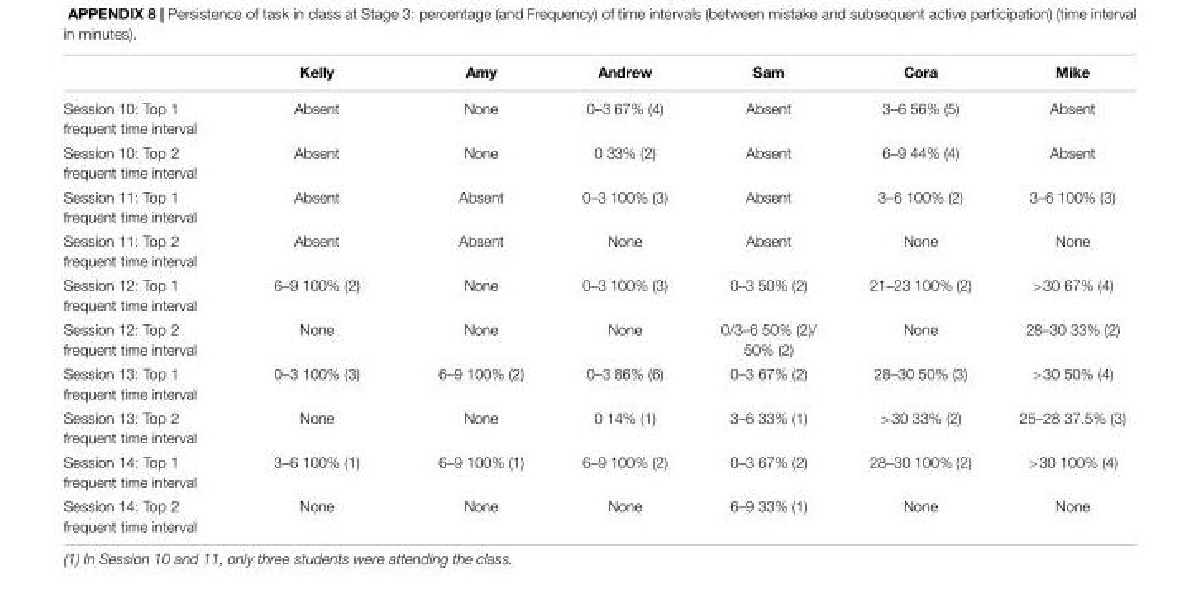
<table><thead><tr><td></td><td>Kelly</td><td>Amy</td><td>Andrew</td><td>Sam</td><td>Cora</td><td>Mike</td></tr></thead><tbody><tr><td>Session 10: Top 1 frequent time interval</td><td>Absent</td><td>None</td><td>0–3 67% (4)</td><td>Absent</td><td>3–6 56% (5)</td><td>Absent</td></tr><tr><td>Session 10: Top 2 frequent time interval</td><td>Absent</td><td>None</td><td>0 33% (2)</td><td>Absent</td><td>6–9 44% (4)</td><td>Absent</td></tr><tr><td>Session 11: Top 1 frequent time interval</td><td>Absent</td><td>Absent</td><td>0–3 100% (3)</td><td>Absent</td><td>3–6 100% (2)</td><td>3–6 100% (3)</td></tr><tr><td>Session 11: Top 2 frequent time interval</td><td>Absent</td><td>Absent</td><td>None</td><td>Absent</td><td>None</td><td>None</td></tr><tr><td>Session 12: Top 1 frequent time interval</td><td>6–9 100% (2)</td><td>None</td><td>0–3 100% (3)</td><td>0–3 50% (2)</td><td>21–23 100% (2)</td><td>&gt;30 67% (4)</td></tr><tr><td>Session 12: Top 2 frequent time interval</td><td>None</td><td>None</td><td>None</td><td>0/3–6 50% (2)/ 50% (2)</td><td>None</td><td>28–30 33% (2)</td></tr><tr><td>Session 13: Top 1 frequent time interval</td><td>0–3 100% (3)</td><td>6–9 100% (2)</td><td>0–3 86% (6)</td><td>0–3 67% (2)</td><td>28–30 50% (3)</td><td>&gt;30 50% (4)</td></tr><tr><td>Session 13: Top 2 frequent time interval</td><td>None</td><td>None</td><td>0 14% (1)</td><td>3–6 33% (1)</td><td>&gt;30 33% (2)</td><td>25–28 37.5% (3)</td></tr><tr><td>Session 14: Top 1 frequent time interval</td><td>3–6 100% (1)</td><td>6–9 100% (1)</td><td>6–9 100% (2)</td><td>0–3 67% (2)</td><td>28–30 100% (2)</td><td>&gt;30 100% (4)</td></tr><tr><td>Session 14: Top 2 frequent time interval</td><td>None</td><td>None</td><td>None</td><td>6–9 33% (1)</td><td>None</td><td>None</td></tr></tbody></table>